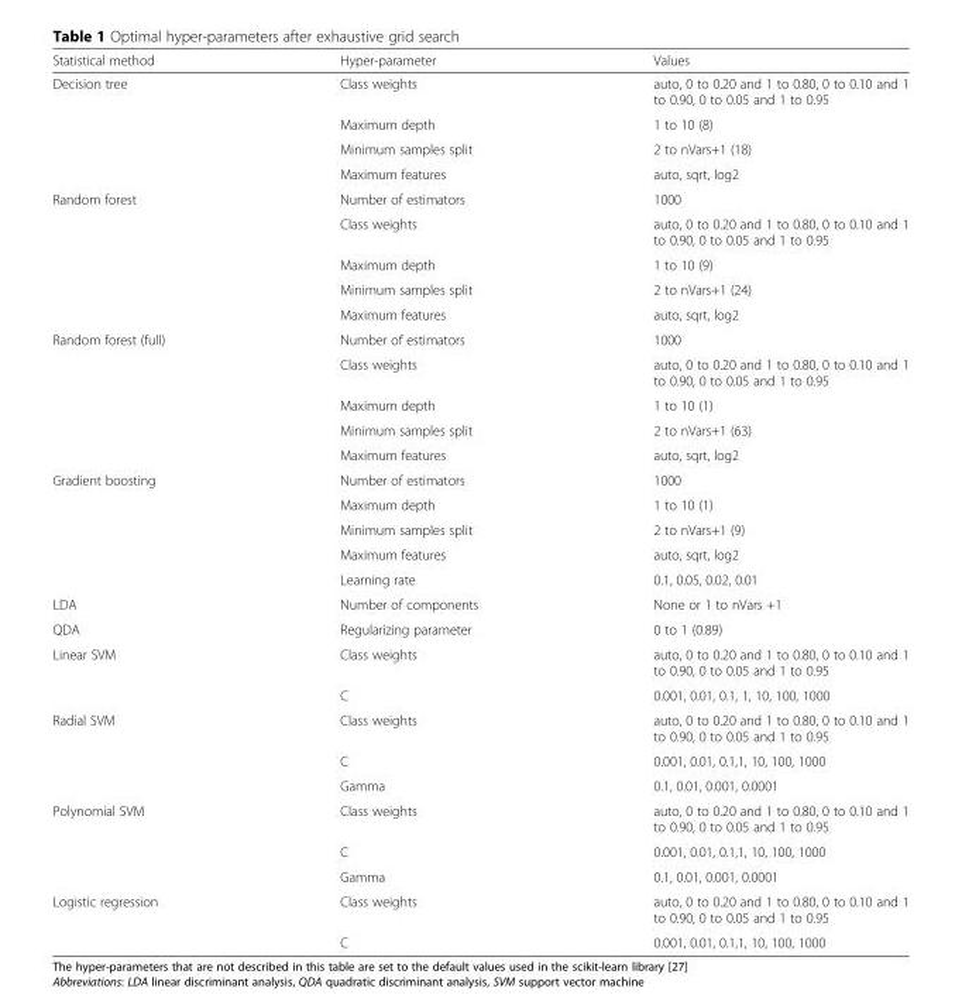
<table><thead><tr><td>Statistical method</td><td>Hyper-parameter</td><td>Values</td></tr></thead><tbody><tr><td rowspan="4">Decision tree</td><td>Class weights</td><td>auto, 0 to 0.20 and 1 to 0.80, 0 to 0.10 and 1 to 0.90, 0 to 0.05 and 1 to 0.95</td></tr><tr><td>Maximum depth</td><td>1 to 10 (8)</td></tr><tr><td>Minimum samples split</td><td>2 to nVars+1 (18)</td></tr><tr><td>Maximum features</td><td>auto, sqrt, log2</td></tr><tr><td rowspan="5">Random forest</td><td>Number of estimators</td><td>1000</td></tr><tr><td>Class weights</td><td>auto, 0 to 0.20 and 1 to 0.80, 0 to 0.10 and 1 to 0.90, 0 to 0.05 and 1 to 0.95</td></tr><tr><td>Maximum depth</td><td>1 to 10 (9)</td></tr><tr><td>Minimum samples split</td><td>2 to nVars+1 (24)</td></tr><tr><td>Maximum features</td><td>auto, sqrt, log2</td></tr><tr><td rowspan="5">Random forest (full)</td><td>Number of estimators</td><td>1000</td></tr><tr><td>Class weights</td><td>auto, 0 to 0.20 and 1 to 0.80, 0 to 0.10 and 1 to 0.90, 0 to 0.05 and 1 to 0.95</td></tr><tr><td>Maximum depth</td><td>1 to 10 (1)</td></tr><tr><td>Minimum samples split</td><td>2 to nVars+1 (63)</td></tr><tr><td>Maximum features</td><td>auto, sqrt, log2</td></tr><tr><td rowspan="5">Gradient boosting</td><td>Number of estimators</td><td>1000</td></tr><tr><td>Maximum depth</td><td>1 to 10 (1)</td></tr><tr><td>Minimum samples split</td><td>2 to nVars+1 (9)</td></tr><tr><td>Maximum features</td><td>auto, sqrt, log2</td></tr><tr><td>Learning rate</td><td>0.1, 0.05, 0.02, 0.01</td></tr><tr><td>LDA</td><td>Number of components</td><td>None or 1 to nVars +1</td></tr><tr><td>QDA</td><td>Regularizing parameter</td><td>0 to 1 (0.89)</td></tr><tr><td rowspan="2">Linear SVM</td><td>Class weights</td><td>auto, 0 to 0.20 and 1 to 0.80, 0 to 0.10 and 1 to 0.90, 0 to 0.05 and 1 to 0.95</td></tr><tr><td>C</td><td>0.001, 0.01, 0.1, 1, 10, 100, 1000</td></tr><tr><td rowspan="3">Radial SVM</td><td>Class weights</td><td>auto, 0 to 0.20 and 1 to 0.80, 0 to 0.10 and 1 to 0.90, 0 to 0.05 and 1 to 0.95</td></tr><tr><td>C</td><td>0.001, 0.01, 0.1,1, 10, 100, 1000</td></tr><tr><td>Gamma</td><td>0.1, 0.01, 0.001, 0.0001</td></tr><tr><td rowspan="3">Polynomial SVM</td><td>Class weights</td><td>auto, 0 to 0.20 and 1 to 0.80, 0 to 0.10 and 1 to 0.90, 0 to 0.05 and 1 to 0.95</td></tr><tr><td>C</td><td>0.001, 0.01, 0.1,1, 10, 100, 1000</td></tr><tr><td>Gamma</td><td>0.1, 0.01, 0.001, 0.0001</td></tr><tr><td rowspan="2">Logistic regression</td><td>Class weights</td><td>auto, 0 to 0.20 and 1 to 0.80, 0 to 0.10 and 1 to 0.90, 0 to 0.05 and 1 to 0.95</td></tr><tr><td>C</td><td>0.001, 0.01, 0.1,1, 10, 100, 1000</td></tr></tbody></table>